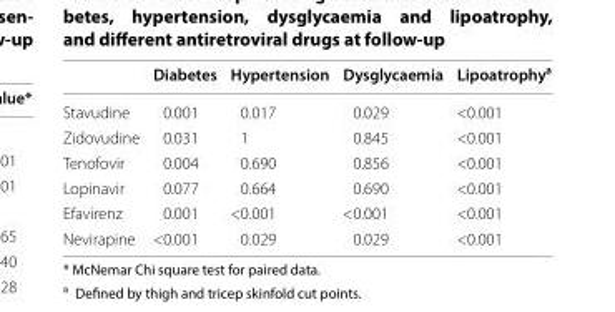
<table><thead><tr><td></td><td>Diabetes</td><td>Hypertension</td><td>Dysglycaemia</td><td>Lipoatrophy<sup>a</sup></td></tr></thead><tbody><tr><td>Stavudine</td><td>0.001</td><td>0.017</td><td>0.029</td><td>&lt;0.001</td></tr><tr><td>Zidovudine</td><td>0.031</td><td>1</td><td>0.845</td><td>&lt;0.001</td></tr><tr><td>Tenofovir</td><td>0.004</td><td>0.690</td><td>0.856</td><td>&lt;0.001</td></tr><tr><td>Lopinavir</td><td>0.077</td><td>0.664</td><td>0.690</td><td>&lt;0.001</td></tr><tr><td>Efavirenz</td><td>0.001</td><td>&lt;0.001</td><td>&lt;0.001</td><td>&lt;0.001</td></tr><tr><td>Nevirapine</td><td>&lt;0.001</td><td>0.029</td><td>0.029</td><td>&lt;0.001</td></tr></tbody></table>